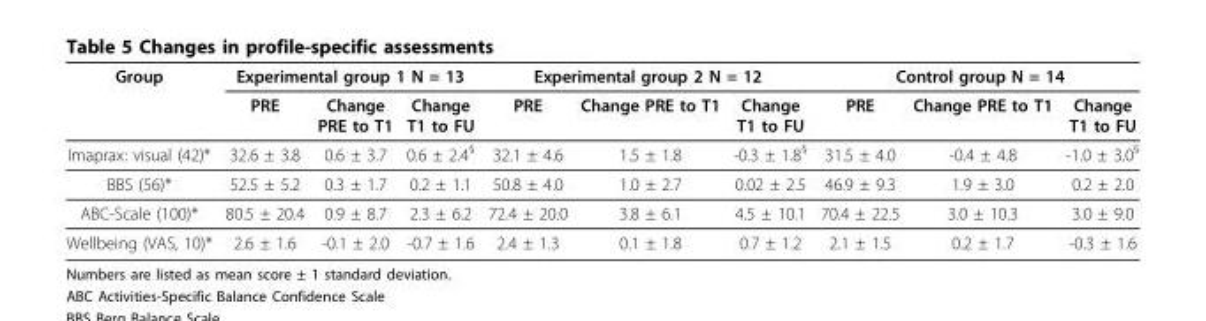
<table><thead><tr><td rowspan="2">Group</td><td colspan="3">Experimental group 1 N = 13</td><td colspan="3">Experimental group 2 N = 12</td><td colspan="3">Control group N = 14</td></tr><tr><td>PRE</td><td>Change PRE to T1</td><td>Change T1 to FU</td><td>PRE</td><td>Change PRE to T1</td><td>Change T1 to FU</td><td>PRE</td><td>Change PRE to T1</td><td>Change T1 to FU</td></tr></thead><tbody><tr><td>Imaprax: visual (42)*</td><td>32.6 ± 3.8</td><td>0.6 ± 3.7</td><td>0.6 ± 2.4<sup>§</sup></td><td>32.1 ± 4.6</td><td>1.5 ± 1.8</td><td>-0.3 ± 1.8<sup>§</sup></td><td>31.5 ± 4.0</td><td>-0.4 ± 4.8</td><td>-1.0 ± 3.0<sup>§</sup></td></tr><tr><td>BBS (56)*</td><td>52.5 ± 5.2</td><td>0.3 ± 1.7</td><td>0.2 ± 1.1</td><td>50.8 ± 4.0</td><td>1.0 ± 2.7</td><td>0.02 ± 2.5</td><td>46.9 ± 9.3</td><td>1.9 ± 3.0</td><td>0.2 ± 2.0</td></tr><tr><td>ABC-Scale (100)*</td><td>80.5 ± 20.4</td><td>0.9 ± 8.7</td><td>2.3 ± 6.2</td><td>72.4 ± 20.0</td><td>3.8 ± 6.1</td><td>4.5 ± 10.1</td><td>70.4 ± 22.5</td><td>3.0 ± 10.3</td><td>3.0 ± 9.0</td></tr><tr><td>Wellbeing (VAS, 10)*</td><td>2.6 ± 1.6</td><td>-0.1 ± 2.0</td><td>-0.7 ± 1.6</td><td>2.4 ± 1.3</td><td>0.1 ± 1.8</td><td>0.7 ± 1.2</td><td>2.1 ± 1.5</td><td>0.2 ± 1.7</td><td>-0.3 ± 1.6</td></tr></tbody></table>